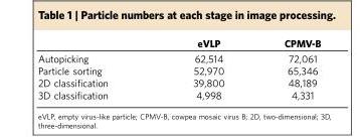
<table><thead><tr><td></td><td>eVLP</td><td>CPMV-B</td></tr></thead><tbody><tr><td>Autopicking</td><td>62,514</td><td>72,061</td></tr><tr><td>Particle sorting</td><td>52,970</td><td>65,346</td></tr><tr><td>2D classification</td><td>39,800</td><td>48,189</td></tr><tr><td>3D classification</td><td>4,998</td><td>4,331</td></tr></tbody></table>